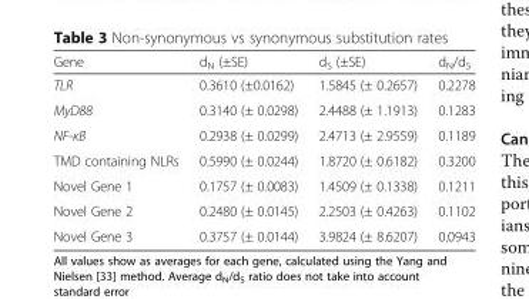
<table><thead><tr><td>Gene</td><td>d<sub>N</sub> (±SE)</td><td>d<sub>S</sub> (±SE)</td><td>d<sub>N</sub>/d<sub>S</sub></td></tr></thead><tbody><tr><td>TLR</td><td>0.3610 (±0.0162)</td><td>1.5845 (± 0.2657)</td><td>0.2278</td></tr><tr><td>MyD88</td><td>0.3140 (± 0.0298)</td><td>2.4488 (± 1.1913)</td><td>0.1283</td></tr><tr><td>NF-κB</td><td>0.2938 (± 0.0299)</td><td>2.4713 (± 2.9559)</td><td>0.1189</td></tr><tr><td>TMD containing NLRs</td><td>0.5990 (± 0.0244)</td><td>1.8720 (± 0.6182)</td><td>0.3200</td></tr><tr><td>Novel Gene 1</td><td>0.1757 (± 0.0083)</td><td>1.4509 (± 0.1338)</td><td>0.1211</td></tr><tr><td>Novel Gene 2</td><td>0.2480 (± 0.0145)</td><td>2.2503 (± 0.4263)</td><td>0.1102</td></tr><tr><td>Novel Gene 3</td><td>0.3757 (± 0.0144)</td><td>3.9824 (± 8.6207)</td><td>0.0943</td></tr></tbody></table>